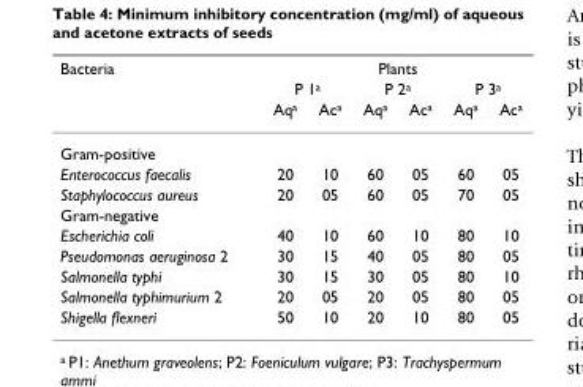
<table><thead><tr><td rowspan="3">Bacteria</td><td colspan="6">Plants</td></tr><tr><td colspan="2">P 1<sup>a</sup></td><td colspan="2">P 2<sup>a</sup></td><td colspan="2">P 3<sup>a</sup></td></tr><tr><td>Aq<sup>a</sup></td><td>Ac<sup>a</sup></td><td>Aq<sup>a</sup></td><td>Ac<sup>a</sup></td><td>Aq<sup>a</sup></td><td>Ac<sup>a</sup></td></tr></thead><tbody><tr><td colspan="7">Gram-positive</td></tr><tr><td>Enterococcus faecalis</td><td>20</td><td>10</td><td>60</td><td>05</td><td>60</td><td>05</td></tr><tr><td>Staphylococcus aureus</td><td>20</td><td>05</td><td>60</td><td>05</td><td>70</td><td>05</td></tr><tr><td colspan="7">Gram-negative</td></tr><tr><td>Escherichia coli</td><td>40</td><td>10</td><td>60</td><td>10</td><td>80</td><td>10</td></tr><tr><td>Pseudomonas aeruginosa 2</td><td>30</td><td>15</td><td>40</td><td>05</td><td>80</td><td>05</td></tr><tr><td>Salmonella typhi</td><td>30</td><td>15</td><td>30</td><td>05</td><td>80</td><td>10</td></tr><tr><td>Salmonella typhimurium 2</td><td>20</td><td>05</td><td>20</td><td>05</td><td>80</td><td>05</td></tr><tr><td>Shigella flexneri</td><td>50</td><td>10</td><td>20</td><td>10</td><td>80</td><td>05</td></tr></tbody></table>